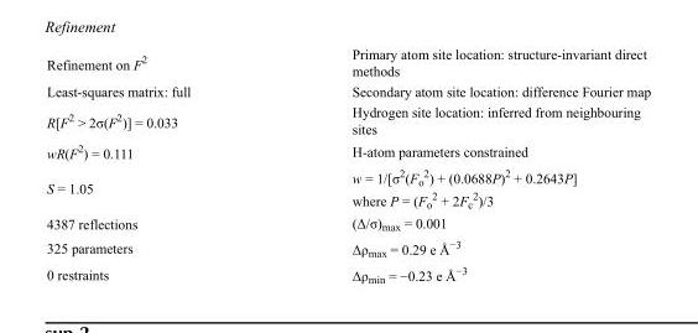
<table><tbody><tr><td>Refinement on F<sup>2</sup></td><td>Primary atom site location: structure-invariant direct methods</td></tr><tr><td>Least-squares matrix: full</td><td>Secondary atom site location: difference Fourier map</td></tr><tr><td>R[F<sup>2</sup> &gt; 2σ(F<sup>2</sup>)] = 0.033</td><td>Hydrogen site location: inferred from neighbouring sites</td></tr><tr><td>wR(F<sup>2</sup>) = 0.111</td><td>H-atom parameters constrained</td></tr><tr><td>S = 1.05</td><td>w = 1/[σ<sup>2</sup>(F<sub>o</sub> <sup>2</sup>) + (0.0688P)<sup>2</sup> + 0.2643P] where P = (F<sub>o</sub> <sup>2</sup> + 2F<sub>c</sub> <sup>2</sup>)/3</td></tr><tr><td>4387 reflections</td><td>(Δ/σ)<sub>max</sub> = 0.001</td></tr><tr><td>325 parameters</td><td>Δρ<sub>max</sub> = 0.29 e Å<sup>−3</sup></td></tr><tr><td>0 restraints</td><td>Δρ<sub>min</sub> = −0.23 e Å<sup>−3</sup></td></tr></tbody></table>